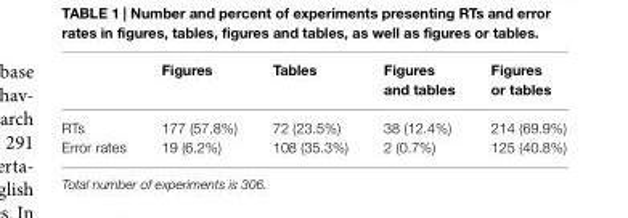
<table><thead><tr><td></td><td>Figures</td><td>Tables</td><td>Figures and tables</td><td>Figures or tables</td></tr></thead><tbody><tr><td>RTs</td><td>177 (57.8%)</td><td>72 (23.5%)</td><td>38 (12.4%)</td><td>214 (69.9%)</td></tr><tr><td>Error rates</td><td>19 (6.2%)</td><td>108 (35.3%)</td><td>2 (0.7%)</td><td>125 (40.8%)</td></tr></tbody></table>